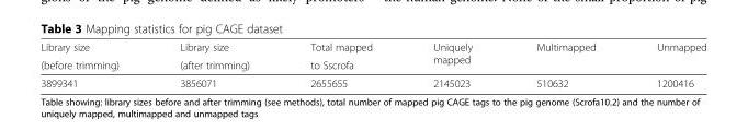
<table><thead><tr><td rowspan="2">Library size (before trimming)</td><td rowspan="2">Library size (after trimming)</td><td rowspan="2">Total mapped to Sscrofa</td><td rowspan="2">Uniquely mapped</td><td rowspan="2">Multimapped</td><td rowspan="2">Unmapped</td></tr><tr></tr></thead><tbody><tr><td>3899341</td><td>3856071</td><td>2655655</td><td>2145023</td><td>510632</td><td>1200416</td></tr></tbody></table>